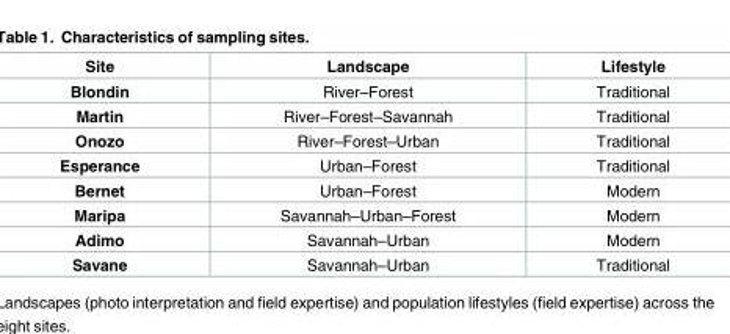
<table><thead><tr><td>Site</td><td>Landscape</td><td>Lifestyle</td></tr></thead><tbody><tr><td>Blondin</td><td>River–Forest</td><td>Traditional</td></tr><tr><td>Martin</td><td>River–Forest–Savannah</td><td>Traditional</td></tr><tr><td>Onozo</td><td>River–Forest–Urban</td><td>Traditional</td></tr><tr><td>Esperance</td><td>Urban–Forest</td><td>Traditional</td></tr><tr><td>Bernet</td><td>Urban–Forest</td><td>Modern</td></tr><tr><td>Maripa</td><td>Savannah–Urban–Forest</td><td>Modern</td></tr><tr><td>Adimo</td><td>Savannah–Urban</td><td>Modern</td></tr><tr><td>Savane</td><td>Savannah–Urban</td><td>Traditional</td></tr></tbody></table>